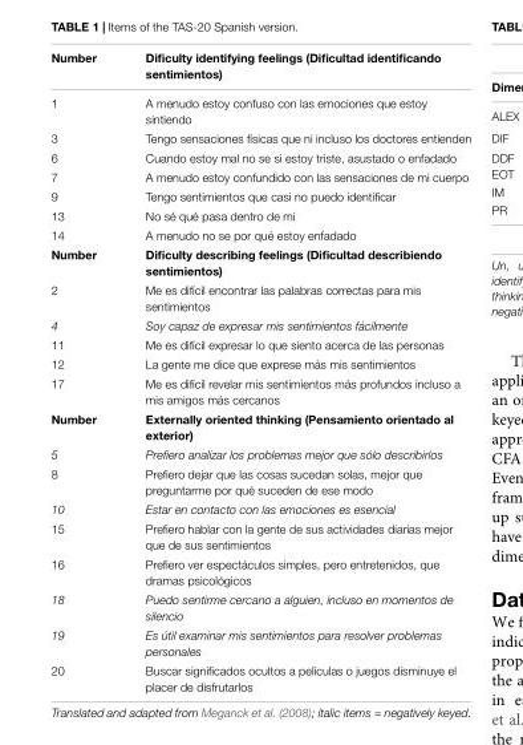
<table><thead><tr><td>Number</td><td>Dificulty identifying feelings (Dificultad identificando sentimientos)</td></tr></thead><tbody><tr><td>1</td><td>A menudo estoy confuso con las emociones que estoy sintiendo</td></tr><tr><td>3</td><td>Tengo sensaciones físicas que ni incluso los doctores entienden</td></tr><tr><td>6</td><td>Cuando estoy mal no se si estoy triste, asustado o enfadado</td></tr><tr><td>7</td><td>A menudo estoy confundido con las sensaciones de mi cuerpo</td></tr><tr><td>9</td><td>Tengo sentimientos que casi no puedo identificar</td></tr><tr><td>13</td><td>No sé qué pasa dentro de mi</td></tr><tr><td>14</td><td>A menudo no se por qué estoy enfadado</td></tr><tr><td>Number</td><td>Dificulty describing feelings (Dificultad describiendo sentimientos)</td></tr><tr><td>2</td><td>Me es difícil encontrar las palabras correctas para mis sentimientos</td></tr><tr><td>4</td><td>Soy capaz de expresar mis sentimientos fácilmente</td></tr><tr><td>11</td><td>Me es difícil expresar lo que siento acerca de las personas</td></tr><tr><td>12</td><td>La gente me dice que exprese más mis sentimientos</td></tr><tr><td>17</td><td>Me es difícil revelar mis sentimientos más profundos incluso a mis amigos más cercanos</td></tr><tr><td>Number</td><td>Externally oriented thinking (Pensamiento orientado al exterior)</td></tr><tr><td>5</td><td>Prefiero analizar los problemas mejor que sólo describirlos</td></tr><tr><td>8</td><td>Prefiero dejar que las cosas sucedan solas, mejor que preguntarme por qué suceden de ese modo</td></tr><tr><td>10</td><td>Estar en contacto con las emociones es esencial</td></tr><tr><td>15</td><td>Prefiero hablar con la gente de sus actividades diarias mejor que de sus sentimientos</td></tr><tr><td>16</td><td>Prefiero ver espectáculos simples, pero entretenidos, que dramas psicológicos</td></tr><tr><td>18</td><td>Puedo sentirme cercano a alguien, incluso en momentos de silencio</td></tr><tr><td>19</td><td>Es útil examinar mis sentimientos para resolver problemas personales</td></tr><tr><td>20</td><td>Buscar significados ocultos a películas o juegos disminuye el placer de disfrutarlos</td></tr></tbody></table>